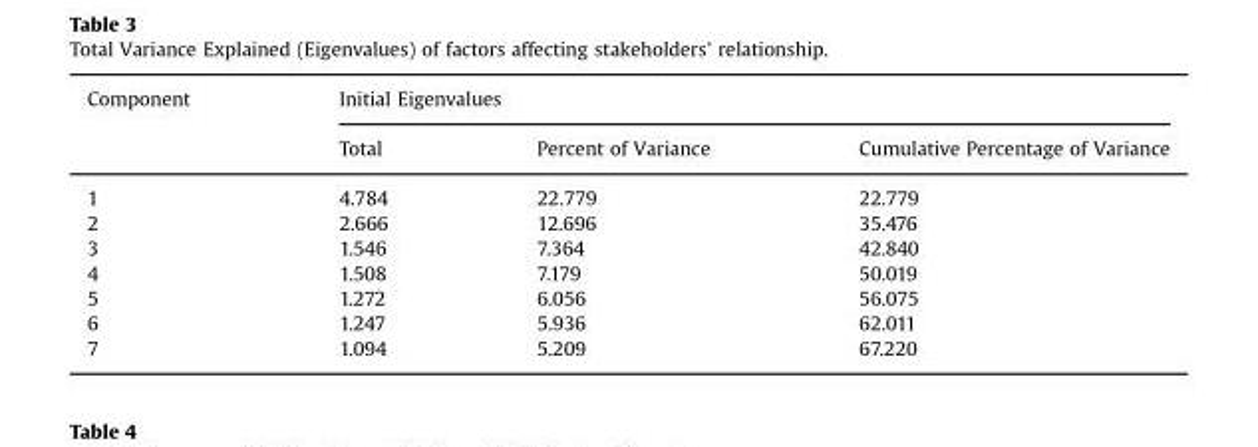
<table><thead><tr><td rowspan="2">Component</td><td colspan="3">Initial Eigenvalues</td></tr><tr><td>Total</td><td>Percent of Variance</td><td>Cumulative Percentage of Variance</td></tr></thead><tbody><tr><td>1</td><td>4.784</td><td>22.779</td><td>22.779</td></tr><tr><td>2</td><td>2.666</td><td>12.696</td><td>35.476</td></tr><tr><td>3</td><td>1.546</td><td>7.364</td><td>42.840</td></tr><tr><td>4</td><td>1.508</td><td>7.179</td><td>50.019</td></tr><tr><td>5</td><td>1.272</td><td>6.056</td><td>56.075</td></tr><tr><td>6</td><td>1.247</td><td>5.936</td><td>62.011</td></tr><tr><td>7</td><td>1.094</td><td>5.209</td><td>67.220</td></tr></tbody></table>